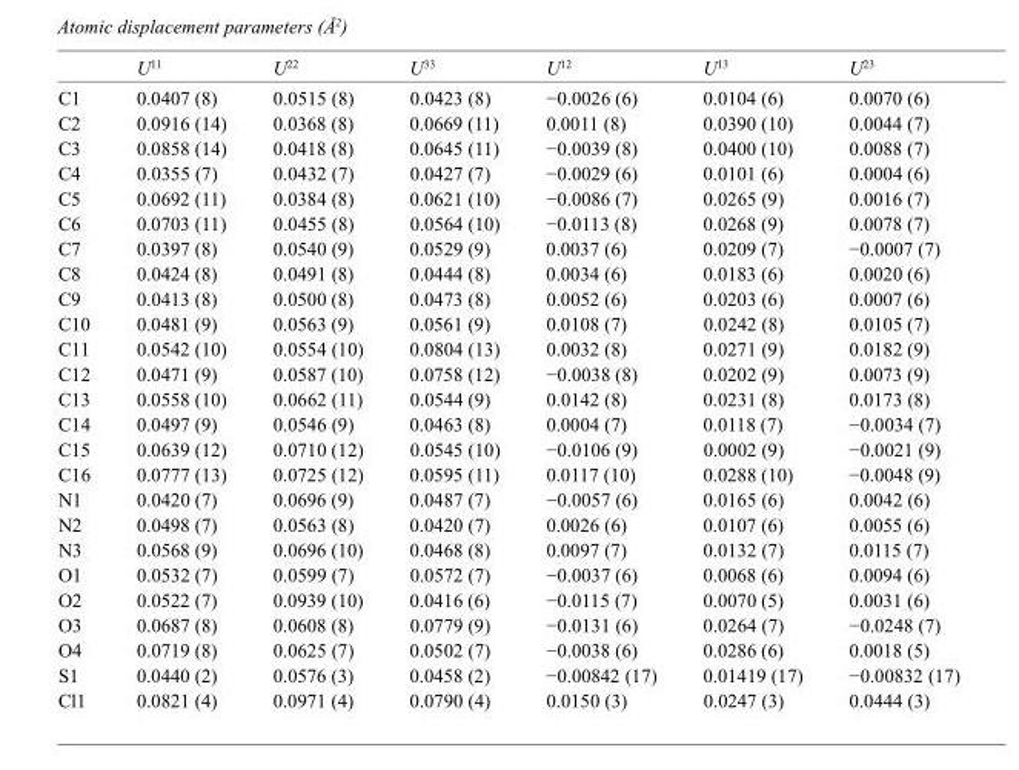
<table><thead><tr><td></td><td>U<sup>11</sup></td><td>U<sup>22</sup></td><td>U<sup>33</sup></td><td>U<sup>12</sup></td><td>U<sup>13</sup></td><td>U<sup>23</sup></td></tr></thead><tbody><tr><td>C1</td><td>0.0407 (8)</td><td>0.0515 (8)</td><td>0.0423 (8)</td><td>−0.0026 (6)</td><td>0.0104 (6)</td><td>0.0070 (6)</td></tr><tr><td>C2</td><td>0.0916 (14)</td><td>0.0368 (8)</td><td>0.0669 (11)</td><td>0.0011 (8)</td><td>0.0390 (10)</td><td>0.0044 (7)</td></tr><tr><td>C3</td><td>0.0858 (14)</td><td>0.0418 (8)</td><td>0.0645 (11)</td><td>−0.0039 (8)</td><td>0.0400 (10)</td><td>0.0088 (7)</td></tr><tr><td>C4</td><td>0.0355 (7)</td><td>0.0432 (7)</td><td>0.0427 (7)</td><td>−0.0029 (6)</td><td>0.0101 (6)</td><td>0.0004 (6)</td></tr><tr><td>C5</td><td>0.0692 (11)</td><td>0.0384 (8)</td><td>0.0621 (10)</td><td>−0.0086 (7)</td><td>0.0265 (9)</td><td>0.0016 (7)</td></tr><tr><td>C6</td><td>0.0703 (11)</td><td>0.0455 (8)</td><td>0.0564 (10)</td><td>−0.0113 (8)</td><td>0.0268 (9)</td><td>0.0078 (7)</td></tr><tr><td>C7</td><td>0.0397 (8)</td><td>0.0540 (9)</td><td>0.0529 (9)</td><td>0.0037 (6)</td><td>0.0209 (7)</td><td>−0.0007 (7)</td></tr><tr><td>C8</td><td>0.0424 (8)</td><td>0.0491 (8)</td><td>0.0444 (8)</td><td>0.0034 (6)</td><td>0.0183 (6)</td><td>0.0020 (6)</td></tr><tr><td>C9</td><td>0.0413 (8)</td><td>0.0500 (8)</td><td>0.0473 (8)</td><td>0.0052 (6)</td><td>0.0203 (6)</td><td>0.0007 (6)</td></tr><tr><td>C10</td><td>0.0481 (9)</td><td>0.0563 (9)</td><td>0.0561 (9)</td><td>0.0108 (7)</td><td>0.0242 (8)</td><td>0.0105 (7)</td></tr><tr><td>C11</td><td>0.0542 (10)</td><td>0.0554 (10)</td><td>0.0804 (13)</td><td>0.0032 (8)</td><td>0.0271 (9)</td><td>0.0182 (9)</td></tr><tr><td>C12</td><td>0.0471 (9)</td><td>0.0587 (10)</td><td>0.0758 (12)</td><td>−0.0038 (8)</td><td>0.0202 (9)</td><td>0.0073 (9)</td></tr><tr><td>C13</td><td>0.0558 (10)</td><td>0.0662 (11)</td><td>0.0544 (9)</td><td>0.0142 (8)</td><td>0.0231 (8)</td><td>0.0173 (8)</td></tr><tr><td>C14</td><td>0.0497 (9)</td><td>0.0546 (9)</td><td>0.0463 (8)</td><td>0.0004 (7)</td><td>0.0118 (7)</td><td>−0.0034 (7)</td></tr><tr><td>C15</td><td>0.0639 (12)</td><td>0.0710 (12)</td><td>0.0545 (10)</td><td>−0.0106 (9)</td><td>0.0002 (9)</td><td>−0.0021 (9)</td></tr><tr><td>C16</td><td>0.0777 (13)</td><td>0.0725 (12)</td><td>0.0595 (11)</td><td>0.0117 (10)</td><td>0.0288 (10)</td><td>−0.0048 (9)</td></tr><tr><td>N1</td><td>0.0420 (7)</td><td>0.0696 (9)</td><td>0.0487 (7)</td><td>−0.0057 (6)</td><td>0.0165 (6)</td><td>0.0042 (6)</td></tr><tr><td>N2</td><td>0.0498 (7)</td><td>0.0563 (8)</td><td>0.0420 (7)</td><td>0.0026 (6)</td><td>0.0107 (6)</td><td>0.0055 (6)</td></tr><tr><td>N3</td><td>0.0568 (9)</td><td>0.0696 (10)</td><td>0.0468 (8)</td><td>0.0097 (7)</td><td>0.0132 (7)</td><td>0.0115 (7)</td></tr><tr><td>O1</td><td>0.0532 (7)</td><td>0.0599 (7)</td><td>0.0572 (7)</td><td>−0.0037 (6)</td><td>0.0068 (6)</td><td>0.0094 (6)</td></tr><tr><td>O2</td><td>0.0522 (7)</td><td>0.0939 (10)</td><td>0.0416 (6)</td><td>−0.0115 (7)</td><td>0.0070 (5)</td><td>0.0031 (6)</td></tr><tr><td>O3</td><td>0.0687 (8)</td><td>0.0608 (8)</td><td>0.0779 (9)</td><td>−0.0131 (6)</td><td>0.0264 (7)</td><td>−0.0248 (7)</td></tr><tr><td>O4</td><td>0.0719 (8)</td><td>0.0625 (7)</td><td>0.0502 (7)</td><td>−0.0038 (6)</td><td>0.0286 (6)</td><td>0.0018 (5)</td></tr><tr><td>S1</td><td>0.0440 (2)</td><td>0.0576 (3)</td><td>0.0458 (2)</td><td>−0.00842 (17)</td><td>0.01419 (17)</td><td>−0.00832 (17)</td></tr><tr><td>Cl1</td><td>0.0821 (4)</td><td>0.0971 (4)</td><td>0.0790 (4)</td><td>0.0150 (3)</td><td>0.0247 (3)</td><td>0.0444 (3)</td></tr></tbody></table>